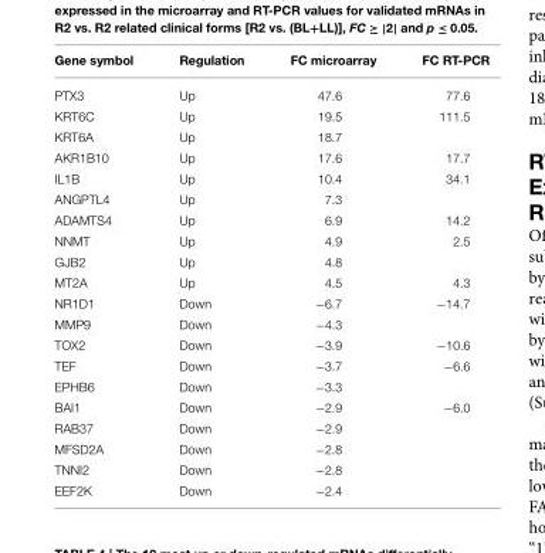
<table><thead><tr><td>Gene symbol</td><td>Regulation</td><td>FC microarray</td><td>FC RT-PCR</td></tr></thead><tbody><tr><td>PTX3</td><td>Up</td><td>47.6</td><td>77.6</td></tr><tr><td>KRT6C</td><td>Up</td><td>19.5</td><td>111.5</td></tr><tr><td>KRT6A</td><td>Up</td><td>18.7</td><td></td></tr><tr><td>AKR1B10</td><td>Up</td><td>17.6</td><td>17.7</td></tr><tr><td>IL1B</td><td>Up</td><td>10.4</td><td>34.1</td></tr><tr><td>ANGPTL4</td><td>Up</td><td>7.3</td><td></td></tr><tr><td>ADAMTS4</td><td>Up</td><td>6.9</td><td>14.2</td></tr><tr><td>NNMT</td><td>Up</td><td>4.9</td><td>2.5</td></tr><tr><td>GJB2</td><td>Up</td><td>4.8</td><td></td></tr><tr><td>MT2A</td><td>Up</td><td>4.5</td><td>4.3</td></tr><tr><td>NR1D1</td><td>Down</td><td>−6.7</td><td>−14.7</td></tr><tr><td>MMP9</td><td>Down</td><td>−4.3</td><td></td></tr><tr><td>TOX2</td><td>Down</td><td>−3.9</td><td>−10.6</td></tr><tr><td>TEF</td><td>Down</td><td>−3.7</td><td>−6.6</td></tr><tr><td>EPHB6</td><td>Down</td><td>−3.3</td><td></td></tr><tr><td>BAI1</td><td>Down</td><td>−2.9</td><td>−6.0</td></tr><tr><td>RAB37</td><td>Down</td><td>−2.9</td><td></td></tr><tr><td>MFSD2A</td><td>Down</td><td>−2.8</td><td></td></tr><tr><td>TNNI2</td><td>Down</td><td>−2.8</td><td></td></tr><tr><td>EEF2K</td><td>Down</td><td>−2.4</td><td></td></tr></tbody></table>